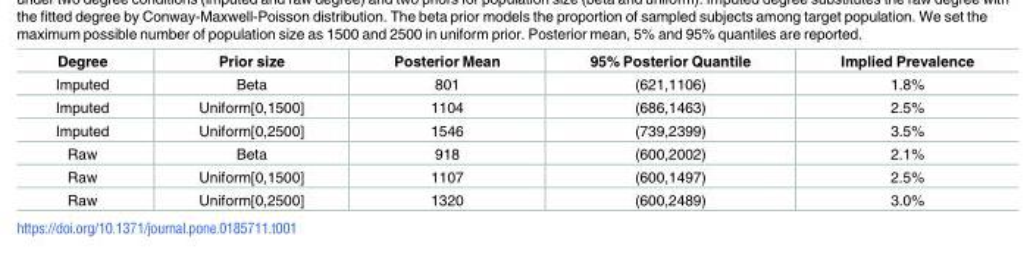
<table><thead><tr><td>Degree</td><td>Prior size</td><td>Posterior Mean</td><td>95% Posterior Quantile</td><td>Implied Prevalence</td></tr></thead><tbody><tr><td>Imputed</td><td>Beta</td><td>801</td><td>(621,1106)</td><td>1.8%</td></tr><tr><td>Imputed</td><td>Uniform[0,1500]</td><td>1104</td><td>(686,1463)</td><td>2.5%</td></tr><tr><td>Imputed</td><td>Uniform[0,2500]</td><td>1546</td><td>(739,2399)</td><td>3.5%</td></tr><tr><td>Raw</td><td>Beta</td><td>918</td><td>(600,2002)</td><td>2.1%</td></tr><tr><td>Raw</td><td>Uniform[0,1500]</td><td>1107</td><td>(600,1497)</td><td>2.5%</td></tr><tr><td>Raw</td><td>Uniform[0,2500]</td><td>1320</td><td>(600,2489)</td><td>3.0%</td></tr></tbody></table>